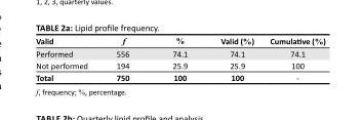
<table><thead><tr><td>Valid</td><td>f</td><td>%</td><td>Valid (%)</td><td>Cumulative (%)</td></tr></thead><tbody><tr><td>Performed</td><td>556</td><td>74.1</td><td>74.1</td><td>74.1</td></tr><tr><td>Not performed</td><td>194</td><td>25.9</td><td>25.9</td><td>100</td></tr><tr><td>Total</td><td>750</td><td>100</td><td>100</td><td>-</td></tr></tbody></table>